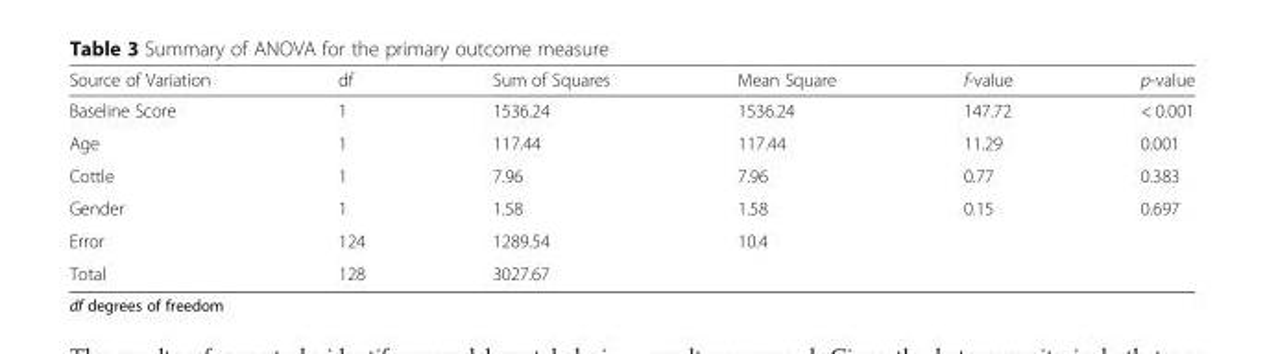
<table><thead><tr><td>Source of Variation</td><td>df</td><td>Sum of Squares</td><td>Mean Square</td><td>f-value</td><td>p-value</td></tr></thead><tbody><tr><td>Baseline Score</td><td>1</td><td>1536.24</td><td>1536.24</td><td>147.72</td><td>&lt; 0.001</td></tr><tr><td>Age</td><td>1</td><td>117.44</td><td>117.44</td><td>11.29</td><td>0.001</td></tr><tr><td>Cottle</td><td>1</td><td>7.96</td><td>7.96</td><td>0.77</td><td>0.383</td></tr><tr><td>Gender</td><td>1</td><td>1.58</td><td>1.58</td><td>0.15</td><td>0.697</td></tr><tr><td>Error</td><td>124</td><td>1289.54</td><td>10.4</td><td></td><td></td></tr><tr><td>Total</td><td>128</td><td>3027.67</td><td></td><td></td><td></td></tr></tbody></table>